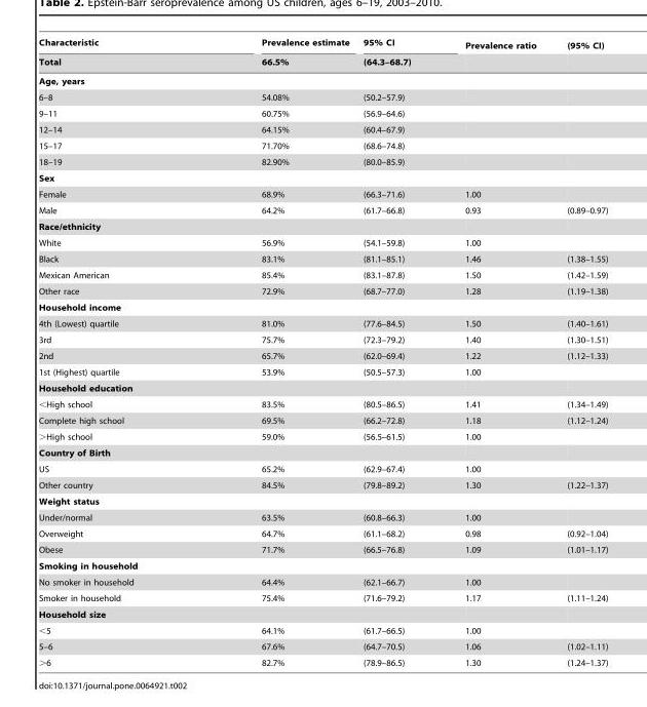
<table><thead><tr><td rowspan="2">Characteristic Total</td><td rowspan="2">Prevalence estimate 66.5%</td><td rowspan="2">95% CI (64.3–68.7)</td><td rowspan="2">Prevalence ratio</td><td rowspan="2">(95% CI)</td></tr><tr></tr></thead><tbody><tr><td colspan="5">Age, years</td></tr><tr><td>6–8</td><td>54.08%</td><td>(50.2–57.9)</td><td></td><td></td></tr><tr><td>9–11</td><td>60.75%</td><td>(56.9–64.6)</td><td></td><td></td></tr><tr><td>12–14</td><td>64.15%</td><td>(60.4–67.9)</td><td></td><td></td></tr><tr><td>15–17</td><td>71.70%</td><td>(68.6–74.8)</td><td></td><td></td></tr><tr><td>18–19</td><td>82.90%</td><td>(80.0–85.9)</td><td></td><td></td></tr><tr><td colspan="5">Sex</td></tr><tr><td>Female</td><td>68.9%</td><td>(66.3–71.6)</td><td>1.00</td><td></td></tr><tr><td>Male</td><td>64.2%</td><td>(61.7–66.8)</td><td>0.93</td><td>(0.89–0.97)</td></tr><tr><td colspan="5">Race/ethnicity</td></tr><tr><td>White</td><td>56.9%</td><td>(54.1–59.8)</td><td>1.00</td><td></td></tr><tr><td>Black</td><td>83.1%</td><td>(81.1–85.1)</td><td>1.46</td><td>(1.38–1.55)</td></tr><tr><td>Mexican American</td><td>85.4%</td><td>(83.1–87.8)</td><td>1.50</td><td>(1.42–1.59)</td></tr><tr><td>Other race</td><td>72.9%</td><td>(68.7–77.0)</td><td>1.28</td><td>(1.19–1.38)</td></tr><tr><td colspan="5">Household income</td></tr><tr><td>4th (Lowest) quartile</td><td>81.0%</td><td>(77.6–84.5)</td><td>1.50</td><td>(1.40–1.61)</td></tr><tr><td>3rd</td><td>75.7%</td><td>(72.3–79.2)</td><td>1.40</td><td>(1.30–1.51)</td></tr><tr><td>2nd</td><td>65.7%</td><td>(62.0–69.4)</td><td>1.22</td><td>(1.12–1.33)</td></tr><tr><td>1st (Highest) quartile</td><td>53.9%</td><td>(50.5–57.3)</td><td>1.00</td><td></td></tr><tr><td colspan="5">Household education</td></tr><tr><td>&lt;High school</td><td>83.5%</td><td>(80.5–86.5)</td><td>1.41</td><td>(1.34–1.49)</td></tr><tr><td>Complete high school</td><td>69.5%</td><td>(66.2–72.8)</td><td>1.18</td><td>(1.12–1.24)</td></tr><tr><td>&gt;High school</td><td>59.0%</td><td>(56.5–61.5)</td><td>1.00</td><td></td></tr><tr><td colspan="5">Country of Birth</td></tr><tr><td>US</td><td>65.2%</td><td>(62.9–67.4)</td><td>1.00</td><td></td></tr><tr><td>Other country</td><td>84.5%</td><td>(79.8–89.2)</td><td>1.30</td><td>(1.22–1.37)</td></tr><tr><td colspan="5">Weight status</td></tr><tr><td>Under/normal</td><td>63.5%</td><td>(60.8–66.3)</td><td>1.00</td><td></td></tr><tr><td>Overweight</td><td>64.7%</td><td>(61.1–68.2)</td><td>0.98</td><td>(0.92–1.04)</td></tr><tr><td>Obese</td><td>71.7%</td><td>(66.5–76.8)</td><td>1.09</td><td>(1.01–1.17)</td></tr><tr><td colspan="5">Smoking in household</td></tr><tr><td>No smoker in household</td><td>64.4%</td><td>(62.1–66.7)</td><td>1.00</td><td></td></tr><tr><td>Smoker in household</td><td>75.4%</td><td>(71.6–79.2)</td><td>1.17</td><td>(1.11–1.24)</td></tr><tr><td colspan="5">Household size</td></tr><tr><td>&lt;5</td><td>64.1%</td><td>(61.7–66.5)</td><td>1.00</td><td></td></tr><tr><td>5–6</td><td>67.6%</td><td>(64.7–70.5)</td><td>1.06</td><td>(1.02–1.11)</td></tr><tr><td>&gt;6</td><td>82.7%</td><td>(78.9–86.5)</td><td>1.30</td><td>(1.24–1.37)</td></tr></tbody></table>